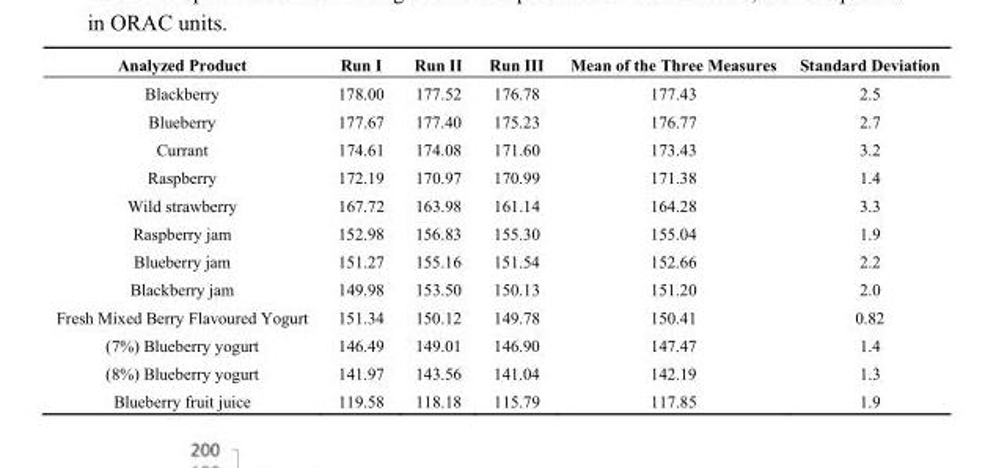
<table><thead><tr><td>Analyzed Product</td><td>Run I</td><td>Run II</td><td>Run III</td><td>Mean of the Three Measures</td><td>Standard Deviation</td></tr></thead><tbody><tr><td>Blackberry</td><td>178.00</td><td>177.52</td><td>176.78</td><td>177.43</td><td>2.5</td></tr><tr><td>Blueberry</td><td>177.67</td><td>177.40</td><td>175.23</td><td>176.77</td><td>2.7</td></tr><tr><td>Currant</td><td>174.61</td><td>174.08</td><td>171.60</td><td>173.43</td><td>3.2</td></tr><tr><td>Raspberry</td><td>172.19</td><td>170.97</td><td>170.99</td><td>171.38</td><td>1.4</td></tr><tr><td>Wild strawberry</td><td>167.72</td><td>163.98</td><td>161.14</td><td>164.28</td><td>3.3</td></tr><tr><td>Raspberry jam</td><td>152.98</td><td>156.83</td><td>155.30</td><td>155.04</td><td>1.9</td></tr><tr><td>Blueberry jam</td><td>151.27</td><td>155.16</td><td>151.54</td><td>152.66</td><td>2.2</td></tr><tr><td>Blackberry jam</td><td>149.98</td><td>153.50</td><td>150.13</td><td>151.20</td><td>2.0</td></tr><tr><td>Fresh Mixed Berry Flavoured Yogurt</td><td>151.34</td><td>150.12</td><td>149.78</td><td>150.41</td><td>0.82</td></tr><tr><td>(7%) Blueberry yogurt</td><td>146.49</td><td>149.01</td><td>146.90</td><td>147.47</td><td>1.4</td></tr><tr><td>(8%) Blueberry yogurt</td><td>141.97</td><td>143.56</td><td>141.04</td><td>142.19</td><td>1.3</td></tr><tr><td>Blueberry fruit juice</td><td>119.58</td><td>118.18</td><td>115.79</td><td>117.85</td><td>1.9</td></tr></tbody></table>